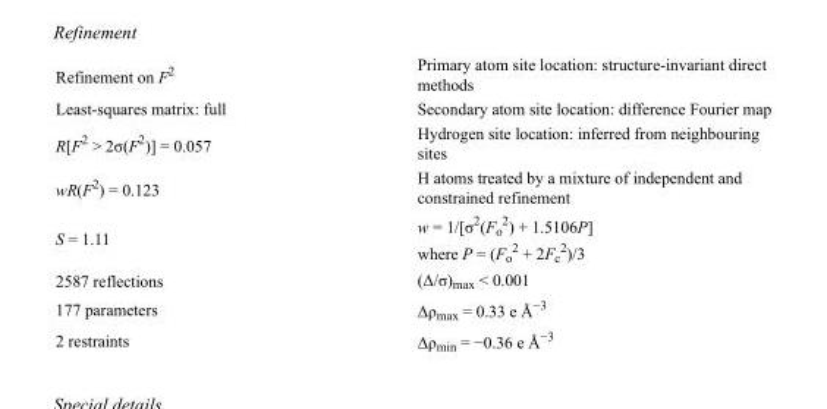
<table><tbody><tr><td>Refinement on F<sup>2</sup></td><td>Primary atom site location: structure-invariant direct methods</td></tr><tr><td>Least-squares matrix: full</td><td>Secondary atom site location: difference Fourier map</td></tr><tr><td>R[F<sup>2</sup> &gt; 2σ(F<sup>2</sup>)] = 0.057</td><td>Hydrogen site location: inferred from neighbouring sites</td></tr><tr><td>wR(F<sup>2</sup>) = 0.123</td><td>H atoms treated by a mixture of independent and constrained refinement</td></tr><tr><td>S = 1.11</td><td>w = 1/[σ<sup>2</sup>(F<sub>o</sub> <sup>2</sup>) + 1.5106P] where P = (F<sub>o</sub> <sup>2</sup> + 2F<sub>c</sub> <sup>2</sup>)/3</td></tr><tr><td>2587 reflections</td><td>(Δ/σ)<sub>max</sub> &lt; 0.001</td></tr><tr><td>177 parameters</td><td>Δρ<sub>max</sub> = 0.33 e Å<sup>−3</sup></td></tr><tr><td>2 restraints</td><td>Δρ<sub>min</sub> = −0.36 e Å<sup>−3</sup></td></tr></tbody></table>